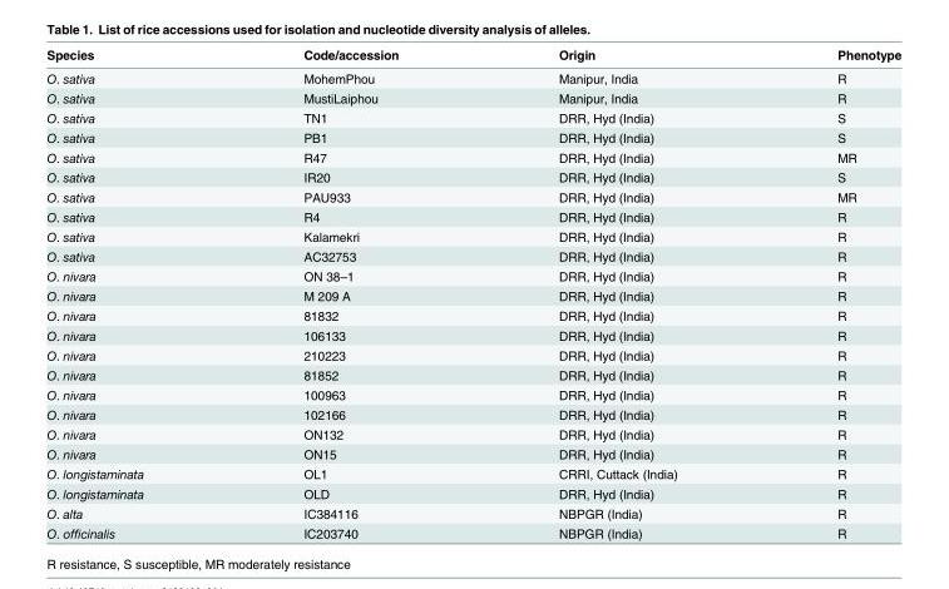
<table><thead><tr><td>Species</td><td>Code/accession</td><td>Origin</td><td>Phenotype</td></tr></thead><tbody><tr><td>O. sativa</td><td>MohemPhou</td><td>Manipur, India</td><td>R</td></tr><tr><td>O. sativa</td><td>MustiLaiphou</td><td>Manipur, India</td><td>R</td></tr><tr><td>O. sativa</td><td>TN1</td><td>DRR, Hyd (India)</td><td>S</td></tr><tr><td>O. sativa</td><td>PB1</td><td>DRR, Hyd (India)</td><td>S</td></tr><tr><td>O. sativa</td><td>R47</td><td>DRR, Hyd (India)</td><td>MR</td></tr><tr><td>O. sativa</td><td>IR20</td><td>DRR, Hyd (India)</td><td>S</td></tr><tr><td>O. sativa</td><td>PAU933</td><td>DRR, Hyd (India)</td><td>MR</td></tr><tr><td>O. sativa</td><td>R4</td><td>DRR, Hyd (India)</td><td>R</td></tr><tr><td>O. sativa</td><td>Kalamekri</td><td>DRR, Hyd (India)</td><td>R</td></tr><tr><td>O. sativa</td><td>AC32753</td><td>DRR, Hyd (India)</td><td>R</td></tr><tr><td>O. nivara</td><td>ON 38–1</td><td>DRR, Hyd (India)</td><td>R</td></tr><tr><td>O. nivara</td><td>M 209 A</td><td>DRR, Hyd (India)</td><td>R</td></tr><tr><td>O. nivara</td><td>81832</td><td>DRR, Hyd (India)</td><td>R</td></tr><tr><td>O. nivara</td><td>106133</td><td>DRR, Hyd (India)</td><td>R</td></tr><tr><td>O. nivara</td><td>210223</td><td>DRR, Hyd (India)</td><td>R</td></tr><tr><td>O. nivara</td><td>81852</td><td>DRR, Hyd (India)</td><td>R</td></tr><tr><td>O. nivara</td><td>100963</td><td>DRR, Hyd (India)</td><td>R</td></tr><tr><td>O. nivara</td><td>102166</td><td>DRR, Hyd (India)</td><td>R</td></tr><tr><td>O. nivara</td><td>ON132</td><td>DRR, Hyd (India)</td><td>R</td></tr><tr><td>O. nivara</td><td>ON15</td><td>DRR, Hyd (India)</td><td>R</td></tr><tr><td>O. longistaminata</td><td>OL1</td><td>CRRI, Cuttack (India)</td><td>R</td></tr><tr><td>O. longistaminata</td><td>OLD</td><td>DRR, Hyd (India)</td><td>R</td></tr><tr><td>O. alta</td><td>IC384116</td><td>NBPGR (India)</td><td>R</td></tr><tr><td>O. officinalis</td><td>IC203740</td><td>NBPGR (India)</td><td>R</td></tr></tbody></table>